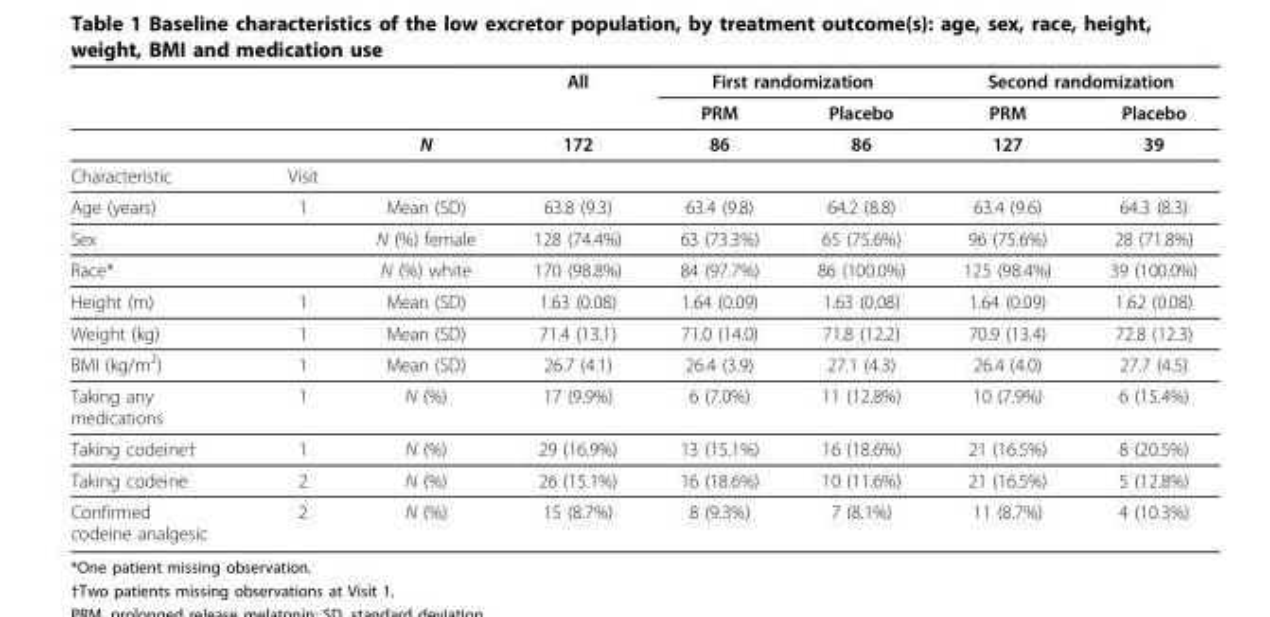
<table><thead><tr><td rowspan="2"></td><td rowspan="2"></td><td rowspan="2"></td><td rowspan="2">All</td><td colspan="2">First randomization</td><td colspan="2">Second randomization</td></tr><tr><td>PRM</td><td>Placebo</td><td>PRM</td><td>Placebo</td></tr></thead><tbody><tr><td></td><td></td><td>N</td><td>172</td><td>86</td><td>86</td><td>127</td><td>39</td></tr><tr><td>Characteristic</td><td>Visit</td><td></td><td></td><td></td><td></td><td></td><td></td></tr><tr><td>Age (years)</td><td>1</td><td>Mean (SD)</td><td>63.8 (9.3)</td><td>63.4 (9.8)</td><td>64.2 (8.8)</td><td>63.4 (9.6)</td><td>64.3 (8.3)</td></tr><tr><td>Sex</td><td></td><td>N (%) female</td><td>128 (74.4%)</td><td>63 (73.3%)</td><td>65 (75.6%)</td><td>96 (75.6%)</td><td>28 (71.8%)</td></tr><tr><td>Race*</td><td></td><td>N (%) white</td><td>170 (98.8%)</td><td>84 (97.7%)</td><td>86 (100.0%)</td><td>125 (98.4%)</td><td>39 (100.0%)</td></tr><tr><td>Height (m)</td><td>1</td><td>Mean (SD)</td><td>1.63 (0.08)</td><td>1.64 (0.09)</td><td>1.63 (0.08)</td><td>1.64 (0.09)</td><td>1.62 (0.08)</td></tr><tr><td>Weight (kg)</td><td>1</td><td>Mean (SD)</td><td>71.4 (13.1)</td><td>71.0 (14.0)</td><td>71.8 (12.2)</td><td>70.9 (13.4)</td><td>72.8 (12.3)</td></tr><tr><td>BMI (kg/m<sup>2</sup>)</td><td>1</td><td>Mean (SD)</td><td>26.7 (4.1)</td><td>26.4 (3.9)</td><td>27.1 (4.3)</td><td>26.4 (4.0)</td><td>27.7 (4.5)</td></tr><tr><td>Taking any medications</td><td>1</td><td>N (%)</td><td>17 (9.9%)</td><td>6 (7.0%)</td><td>11 (12.8%)</td><td>10 (7.9%)</td><td>6 (15.4%)</td></tr><tr><td>Taking codeine†</td><td>1</td><td>N (%)</td><td>29 (16.9%)</td><td>13 (15.1%)</td><td>16 (18.6%)</td><td>21 (16.5%)</td><td>8 (20.5%)</td></tr><tr><td>Taking codeine</td><td>2</td><td>N (%)</td><td>26 (15.1%)</td><td>16 (18.6%)</td><td>10 (11.6%)</td><td>21 (16.5%)</td><td>5 (12.8%)</td></tr><tr><td>Confirmed codeine analgesic</td><td>2</td><td>N (%)</td><td>15 (8.7%)</td><td>8 (9.3%)</td><td>7 (8.1%)</td><td>11 (8.7%)</td><td>4 (10.3%)</td></tr></tbody></table>